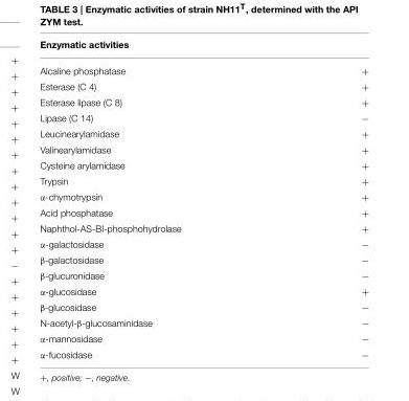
<table><thead><tr><td colspan="2">Enzymatic activities</td></tr><tr><td>Alcaline phosphatase</td><td>+</td></tr></thead><tbody><tr><td>Esterase (C 4)</td><td>+</td></tr><tr><td>Esterase lipase (C 8)</td><td>+</td></tr><tr><td>Lipase (C 14)</td><td>−</td></tr><tr><td>Leucinearylamidase</td><td>+</td></tr><tr><td>Valinearylamidase</td><td>+</td></tr><tr><td>Cysteine arylamidase</td><td>+</td></tr><tr><td>Trypsin</td><td>+</td></tr><tr><td>α-chymotrypsin</td><td>+</td></tr><tr><td>Acid phosphatase</td><td>+</td></tr><tr><td>Naphthol-AS-BI-phosphohydrolase</td><td>+</td></tr><tr><td>α-galactosidase</td><td>−</td></tr><tr><td>β-galactosidase</td><td>−</td></tr><tr><td>β-glucuronidase</td><td>−</td></tr><tr><td>α-glucosidase</td><td>+</td></tr><tr><td>β-glucosidase</td><td>−</td></tr><tr><td>N-acetyl-β-glucosaminidase</td><td>−</td></tr><tr><td>α-mannosidase</td><td>−</td></tr><tr><td>α-fucosidase</td><td>−</td></tr></tbody></table>